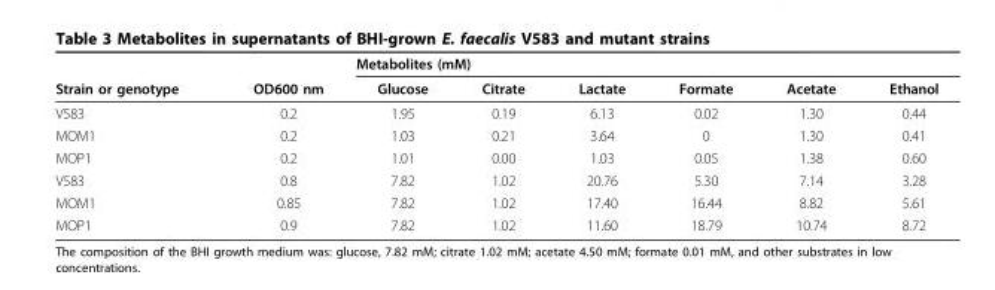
<table><thead><tr><td rowspan="2">Strain or genotype</td><td rowspan="2">OD600 nm</td><td colspan="6">Metabolites (mM)</td></tr><tr><td>Glucose</td><td>Citrate</td><td>Lactate</td><td>Formate</td><td>Acetate</td><td>Ethanol</td></tr></thead><tbody><tr><td>V583</td><td>0.2</td><td>1.95</td><td>0.19</td><td>6.13</td><td>0.02</td><td>1.30</td><td>0.44</td></tr><tr><td>MOM1</td><td>0.2</td><td>1.03</td><td>0.21</td><td>3.64</td><td>0</td><td>1.30</td><td>0.41</td></tr><tr><td>MOP1</td><td>0.2</td><td>1.01</td><td>0.00</td><td>1.03</td><td>0.05</td><td>1.38</td><td>0.60</td></tr><tr><td>V583</td><td>0.8</td><td>7.82</td><td>1.02</td><td>20.76</td><td>5.30</td><td>7.14</td><td>3.28</td></tr><tr><td>MOM1</td><td>0.85</td><td>7.82</td><td>1.02</td><td>17.40</td><td>16.44</td><td>8.82</td><td>5.61</td></tr><tr><td>MOP1</td><td>0.9</td><td>7.82</td><td>1.02</td><td>11.60</td><td>18.79</td><td>10.74</td><td>8.72</td></tr></tbody></table>